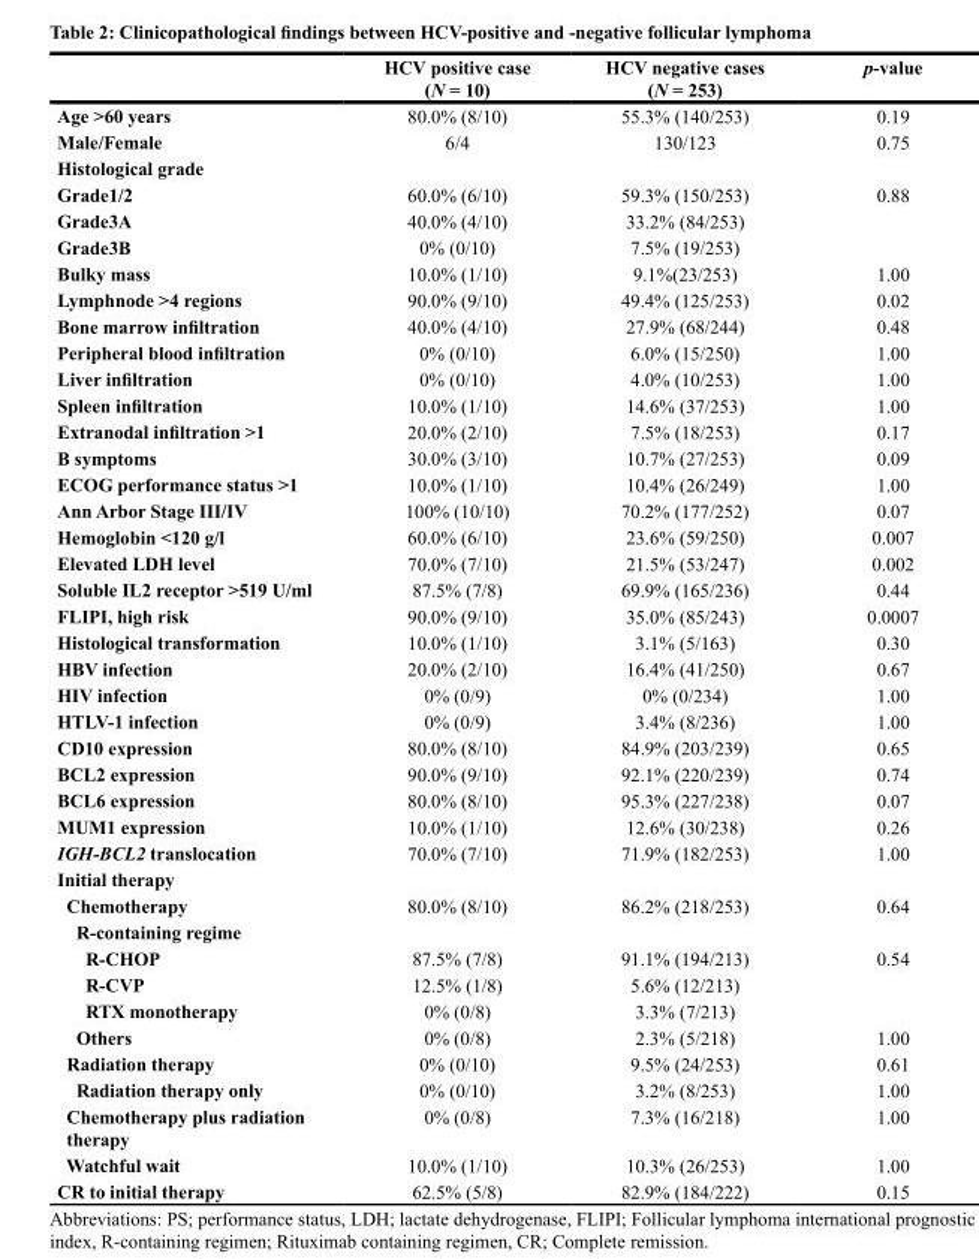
<table><thead><tr><td></td><td>HCV positive case (N = 10)</td><td>HCV negative cases (N = 253)</td><td>p-value</td></tr></thead><tbody><tr><td>Age &gt;60 years</td><td>80.0% (8/10)</td><td>55.3% (140/253)</td><td>0.19</td></tr><tr><td>Male/Female</td><td>6/4</td><td>130/123</td><td>0.75</td></tr><tr><td colspan="4">Histological grade</td></tr><tr><td>Grade1/2</td><td>60.0% (6/10)</td><td>59.3% (150/253)</td><td>0.88</td></tr><tr><td>Grade3A</td><td>40.0% (4/10)</td><td>33.2% (84/253)</td><td></td></tr><tr><td>Grade3B</td><td>0% (0/10)</td><td>7.5% (19/253)</td><td></td></tr><tr><td>Bulky mass</td><td>10.0% (1/10)</td><td>9.1%(23/253)</td><td>1.00</td></tr><tr><td>Lymphnode &gt;4 regions</td><td>90.0% (9/10)</td><td>49.4% (125/253)</td><td>0.02</td></tr><tr><td>Bone marrow infiltration</td><td>40.0% (4/10)</td><td>27.9% (68/244)</td><td>0.48</td></tr><tr><td>Peripheral blood infiltration</td><td>0% (0/10)</td><td>6.0% (15/250)</td><td>1.00</td></tr><tr><td>Liver infiltration</td><td>0% (0/10)</td><td>4.0% (10/253)</td><td>1.00</td></tr><tr><td>Spleen infiltration</td><td>10.0% (1/10)</td><td>14.6% (37/253)</td><td>1.00</td></tr><tr><td>Extranodal infiltration &gt;1</td><td>20.0% (2/10)</td><td>7.5% (18/253)</td><td>0.17</td></tr><tr><td>B symptoms</td><td>30.0% (3/10)</td><td>10.7% (27/253)</td><td>0.09</td></tr><tr><td>ECOG performance status &gt;1</td><td>10.0% (1/10)</td><td>10.4% (26/249)</td><td>1.00</td></tr><tr><td>Ann Arbor Stage III/IV</td><td>100% (10/10)</td><td>70.2% (177/252)</td><td>0.07</td></tr><tr><td>Hemoglobin &lt;120 g/l</td><td>60.0% (6/10)</td><td>23.6% (59/250)</td><td>0.007</td></tr><tr><td>Elevated LDH level</td><td>70.0% (7/10)</td><td>21.5% (53/247)</td><td>0.002</td></tr><tr><td>Soluble IL2 receptor &gt;519 U/ml</td><td>87.5% (7/8)</td><td>69.9% (165/236)</td><td>0.44</td></tr><tr><td>FLIPI, high risk</td><td>90.0% (9/10)</td><td>35.0% (85/243)</td><td>0.0007</td></tr><tr><td>Histological transformation</td><td>10.0% (1/10)</td><td>3.1% (5/163)</td><td>0.30</td></tr><tr><td>HBV infection</td><td>20.0% (2/10)</td><td>16.4% (41/250)</td><td>0.67</td></tr><tr><td>HIV infection</td><td>0% (0/9)</td><td>0% (0/234)</td><td>1.00</td></tr><tr><td>HTLV-1 infection</td><td>0% (0/9)</td><td>3.4% (8/236)</td><td>1.00</td></tr><tr><td>CD10 expression</td><td>80.0% (8/10)</td><td>84.9% (203/239)</td><td>0.65</td></tr><tr><td>BCL2 expression</td><td>90.0% (9/10)</td><td>92.1% (220/239)</td><td>0.74</td></tr><tr><td>BCL6 expression</td><td>80.0% (8/10)</td><td>95.3% (227/238)</td><td>0.07</td></tr><tr><td>MUM1 expression</td><td>10.0% (1/10)</td><td>12.6% (30/238)</td><td>0.26</td></tr><tr><td>IGH-BCL2 translocation</td><td>70.0% (7/10)</td><td>71.9% (182/253)</td><td>1.00</td></tr><tr><td colspan="4">Initial therapy</td></tr><tr><td>Chemotherapy</td><td>80.0% (8/10)</td><td>86.2% (218/253)</td><td>0.64</td></tr><tr><td colspan="4">R-containing regime</td></tr><tr><td>R-CHOP</td><td>87.5% (7/8)</td><td>91.1% (194/213)</td><td>0.54</td></tr><tr><td>R-CVP</td><td>12.5% (1/8)</td><td>5.6% (12/213)</td><td></td></tr><tr><td>RTX monotherapy</td><td>0% (0/8)</td><td>3.3% (7/213)</td><td></td></tr><tr><td>Others</td><td>0% (0/8)</td><td>2.3% (5/218)</td><td>1.00</td></tr><tr><td>Radiation therapy</td><td>0% (0/10)</td><td>9.5% (24/253)</td><td>0.61</td></tr><tr><td>Radiation therapy only</td><td>0% (0/10)</td><td>3.2% (8/253)</td><td>1.00</td></tr><tr><td>Chemotherapy plus radiation therapy</td><td>0% (0/8)</td><td>7.3% (16/218)</td><td>1.00</td></tr><tr><td>Watchful wait</td><td>10.0% (1/10)</td><td>10.3% (26/253)</td><td>1.00</td></tr><tr><td>CR to initial therapy</td><td>62.5% (5/8)</td><td>82.9% (184/222)</td><td>0.15</td></tr></tbody></table>